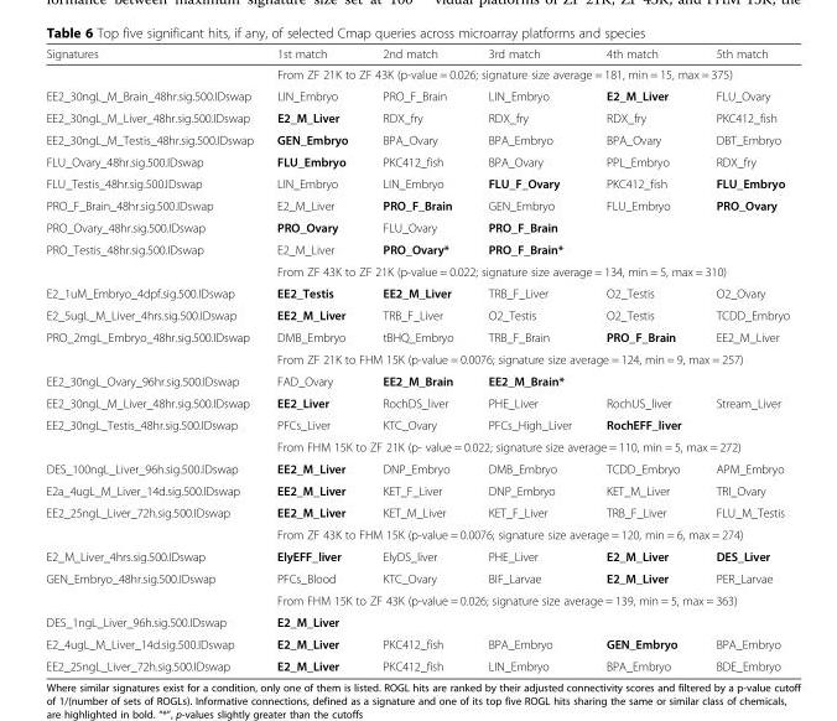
<table><thead><tr><td>Signatures</td><td>1st match</td><td>2nd match</td><td>3rd match</td><td>4th match</td><td>5th match</td></tr></thead><tbody><tr><td></td><td colspan="5">From ZF 21K to ZF 43K (p-value = 0.026; signature size average = 181, min = 15, max = 375)</td></tr><tr><td>EE2_30ngL_M_Brain_48hr.sig.500.IDswap</td><td>LIN_Embryo</td><td>PRO_F_Brain</td><td>LIN_Embryo</td><td>E2_M_Liver</td><td>FLU_Ovary</td></tr><tr><td>EE2_30ngL_M_Liver_48hr.sig.500.IDswap</td><td>E2_M_Liver</td><td>RDX_fry</td><td>RDX_fry</td><td>RDX_fry</td><td>PKC412_fish</td></tr><tr><td>EE2_30ngL_M_Testis_48hr.sig.500.IDswap</td><td>GEN_Embryo</td><td>BPA_Ovary</td><td>BPA_Embryo</td><td>BPA_Ovary</td><td>DBT_Embryo</td></tr><tr><td>FLU_Ovary_48hr.sig.500.IDswap</td><td>FLU_Embryo</td><td>PKC412_fish</td><td>BPA_Ovary</td><td>PPL_Embryo</td><td>RDX_fry</td></tr><tr><td>FLU_Testis_48hr.sig.500.IDswap</td><td>LIN_Embryo</td><td>LIN_Embryo</td><td>FLU_F_Ovary</td><td>PKC412_fish</td><td>FLU_Embryo</td></tr><tr><td>PRO_F_Brain_48hr.sig.500.IDswap</td><td>E2_M_Liver</td><td>PRO_F_Brain</td><td>GEN_Embryo</td><td>FLU_Embryo</td><td>PRO_Ovary</td></tr><tr><td>PRO_Ovary_48hr.sig.500.IDswap</td><td>PRO_Ovary</td><td>FLU_Ovary</td><td>PRO_F_Brain</td><td></td><td></td></tr><tr><td rowspan="2">PRO_Testis_48hr.sig.500.IDswap</td><td>E2_M_Liver</td><td>PRO_Ovary*</td><td>PRO_F_Brain*</td><td></td><td></td></tr><tr><td colspan="5">From ZF 43K to ZF 21K (p-value = 0.022; signature size average = 134, min = 5, max = 310)</td></tr><tr><td>E2_1uM_Embryo_4dpf.sig.500.IDswap</td><td>EE2_Testis</td><td>EE2_M_Liver</td><td>TRB_F_Liver</td><td>O2_Testis</td><td>O2_Ovary</td></tr><tr><td>E2_5ugL_M_Liver_4hrs.sig.500.IDswap</td><td>EE2_M_Liver</td><td>TRB_F_Liver</td><td>O2_Testis</td><td>O2_Testis</td><td>TCDD_Embryo</td></tr><tr><td rowspan="2">PRO_2mgL_Embryo_48hr.sig.500.IDswap</td><td>DMB_Embryo</td><td>tBHQ_Embryo</td><td>TRB_F_Brain</td><td>PRO_F_Brain</td><td>EE2_M_Liver</td></tr><tr><td colspan="5">From ZF 21K to FHM 15K (p-value = 0.0076; signature size average = 124, min = 9, max = 257)</td></tr><tr><td>EE2_30ngL_Ovary_96hr.sig.500.IDswap</td><td>FAD_Ovary</td><td>EE2_M_Brain</td><td>EE2_M_Brain*</td><td></td><td></td></tr><tr><td>EE2_30ngL_M_Liver_48hr.sig.500.IDswap</td><td>EE2_Liver</td><td>RochDS_liver</td><td>PHE_Liver</td><td>RochUS_liver</td><td>Stream_Liver</td></tr><tr><td rowspan="2">EE2_30ngL_Testis_48hr.sig.500.IDswap</td><td>PFCs_Liver</td><td>KTC_Ovary</td><td>PFCs_High_Liver</td><td>RochEFF_liver</td><td></td></tr><tr><td colspan="5">From FHM 15K to ZF 21K (p- value = 0.022; signature size average = 110, min = 5, max = 272)</td></tr><tr><td>DES_100ngL_Liver_96h.sig.500.IDswap</td><td>EE2_M_Liver</td><td>DNP_Embryo</td><td>DMB_Embryo</td><td>TCDD_Embryo</td><td>APM_Embryo</td></tr><tr><td>E2a_4ugL_M_Liver_14d.sig.500.IDswap</td><td>EE2_M_Liver</td><td>KET_F_Liver</td><td>DNP_Embryo</td><td>KET_M_Liver</td><td>TRI_Ovary</td></tr><tr><td rowspan="2">EE2_25ngL_Liver_72h.sig.500.IDswap</td><td>EE2_M_Liver</td><td>KET_M_Liver</td><td>KET_F_Liver</td><td>TRB_F_Liver</td><td>FLU_M_Testis</td></tr><tr><td colspan="5">From ZF 43K to FHM 15K (p-value = 0.0076; signature size average = 120, min = 6, max = 274)</td></tr><tr><td>E2_M_Liver_4hrs.sig.500.IDswap</td><td>ElyEFF_liver</td><td>ElyDS_liver</td><td>PHE_Liver</td><td>E2_M_Liver</td><td>DES_Liver</td></tr><tr><td rowspan="2">GEN_Embryo_48hr.sig.500.IDswap</td><td>PFCs_Blood</td><td>KTC_Ovary</td><td>BIF_Larvae</td><td>E2_M_Liver</td><td>PER_Larvae</td></tr><tr><td colspan="5">From FHM 15K to ZF 43K (p-value = 0.026; signature size average = 139, min = 5, max = 363)</td></tr><tr><td>DES_1ngL_Liver_96h.sig.500.IDswap</td><td>E2_M_Liver</td><td></td><td></td><td></td><td></td></tr><tr><td>E2_4ugL_M_Liver_14d.sig.500.IDswap</td><td>E2_M_Liver</td><td>PKC412_fish</td><td>BPA_Embryo</td><td>GEN_Embryo</td><td>BPA_Embryo</td></tr><tr><td>EE2_25ngL_Liver_72h.sig.500.IDswap</td><td>E2_M_Liver</td><td>PKC412_fish</td><td>LIN_Embryo</td><td>BPA_Embryo</td><td>BDE_Embryo</td></tr></tbody></table>